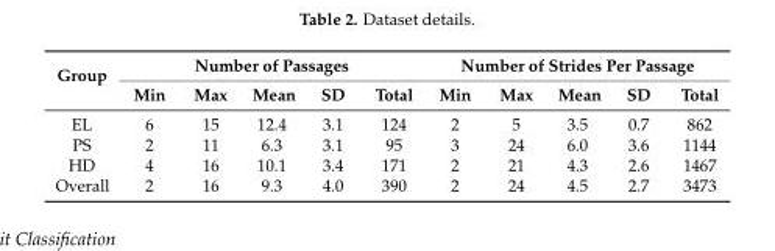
<table><thead><tr><td rowspan="2">Group</td><td colspan="5">Number of Passages</td><td colspan="5">Number of Strides Per Passage</td></tr><tr><td>Min</td><td>Max</td><td>Mean</td><td>SD</td><td>Total</td><td>Min</td><td>Max</td><td>Mean</td><td>SD</td><td>Total</td></tr></thead><tbody><tr><td>EL</td><td>6</td><td>15</td><td>12.4</td><td>3.1</td><td>124</td><td>2</td><td>5</td><td>3.5</td><td>0.7</td><td>862</td></tr><tr><td>PS</td><td>2</td><td>11</td><td>6.3</td><td>3.1</td><td>95</td><td>3</td><td>24</td><td>6.0</td><td>3.6</td><td>1144</td></tr><tr><td>HD</td><td>4</td><td>16</td><td>10.1</td><td>3.4</td><td>171</td><td>2</td><td>21</td><td>4.3</td><td>2.6</td><td>1467</td></tr><tr><td>Overall</td><td>2</td><td>16</td><td>9.3</td><td>4.0</td><td>390</td><td>2</td><td>24</td><td>4.5</td><td>2.7</td><td>3473</td></tr></tbody></table>